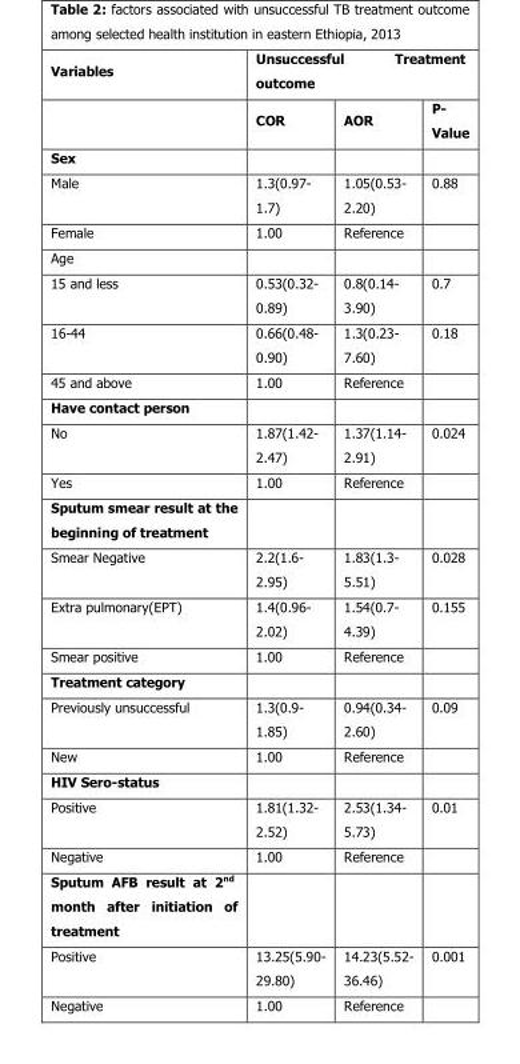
<table><thead><tr><td rowspan="2">Variables</td><td colspan="3">Unsuccessful Treatment outcome</td></tr><tr><td>COR</td><td>AOR</td><td>P- Value</td></tr></thead><tbody><tr><td colspan="4">Sex</td></tr><tr><td>Male</td><td>1.3(0.97- 1.7)</td><td>1.05(0.53- 2.20)</td><td>0.88</td></tr><tr><td>Female</td><td>1.00</td><td>Reference</td><td></td></tr><tr><td colspan="4">Age</td></tr><tr><td>15 and less</td><td>0.53(0.32- 0.89)</td><td>0.8(0.14- 3.90)</td><td>0.7</td></tr><tr><td>16-44</td><td>0.66(0.48- 0.90)</td><td>1.3(0.23- 7.60)</td><td>0.18</td></tr><tr><td>45 and above</td><td>1.00</td><td>Reference</td><td></td></tr><tr><td colspan="4">Have contact person</td></tr><tr><td>No</td><td>1.87(1.42- 2.47)</td><td>1.37(1.14- 2.91)</td><td>0.024</td></tr><tr><td>Yes</td><td>1.00</td><td>Reference</td><td></td></tr><tr><td colspan="4">Sputum smear result at the beginning of treatment</td></tr><tr><td>Smear Negative</td><td>2.2(1.6- 2.95)</td><td>1.83(1.3- 5.51)</td><td>0.028</td></tr><tr><td>Extra pulmonary(EPT)</td><td>1.4(0.96- 2.02)</td><td>1.54(0.7- 4.39)</td><td>0.155</td></tr><tr><td>Smear positive</td><td>1.00</td><td>Reference</td><td></td></tr><tr><td colspan="4">Treatment category</td></tr><tr><td>Previously unsuccessful</td><td>1.3(0.9- 1.85)</td><td>0.94(0.34- 2.60)</td><td>0.09</td></tr><tr><td>New</td><td>1.00</td><td>Reference</td><td></td></tr><tr><td colspan="4">HIV Sero-status</td></tr><tr><td>Positive</td><td>1.81(1.32- 2.52)</td><td>2.53(1.34- 5.73)</td><td>0.01</td></tr><tr><td>Negative</td><td>1.00</td><td>Reference</td><td></td></tr><tr><td colspan="4">Sputum AFB result at 2<sup>nd</sup> month after initiation of treatment</td></tr><tr><td>Positive</td><td>13.25(5.90- 29.80)</td><td>14.23(5.52- 36.46)</td><td>0.001</td></tr><tr><td>Negative</td><td>1.00</td><td>Reference</td><td></td></tr></tbody></table>